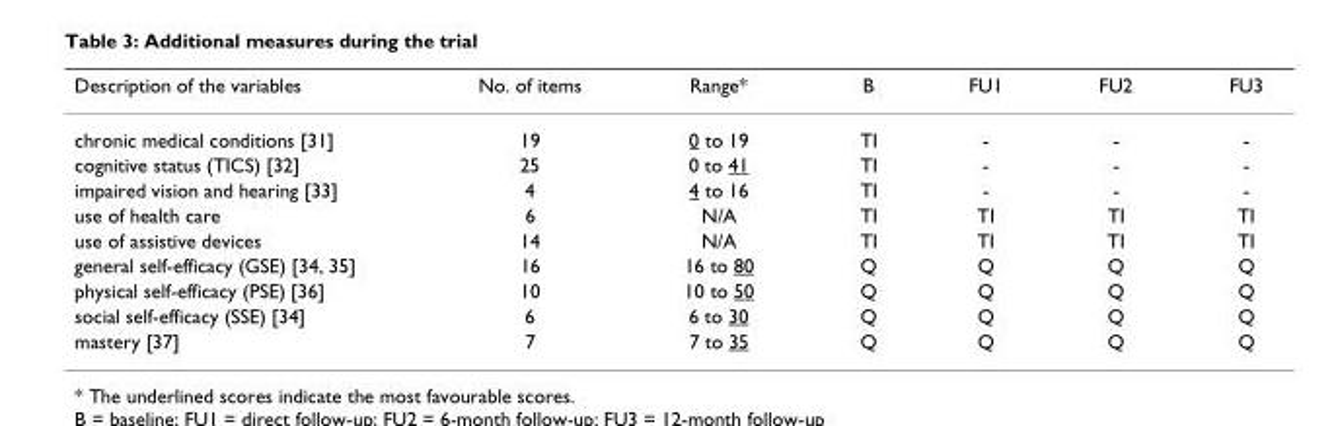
<table><thead><tr><td>Description of the variables</td><td>No. of items</td><td>Range*</td><td>B</td><td>FU1</td><td>FU2</td><td>FU3</td></tr></thead><tbody><tr><td>chronic medical conditions [31]</td><td>19</td><td>0 to 19</td><td>TI</td><td>-</td><td>-</td><td>-</td></tr><tr><td>cognitive status (TICS) [32]</td><td>25</td><td>0 to 41</td><td>TI</td><td>-</td><td>-</td><td>-</td></tr><tr><td>impaired vision and hearing [33]</td><td>4</td><td>4 to 16</td><td>TI</td><td>-</td><td>-</td><td>-</td></tr><tr><td>use of health care</td><td>6</td><td>N/A</td><td>TI</td><td>TI</td><td>TI</td><td>TI</td></tr><tr><td>use of assistive devices</td><td>14</td><td>N/A</td><td>TI</td><td>TI</td><td>TI</td><td>TI</td></tr><tr><td>general self-efficacy (GSE) [34, 35]</td><td>16</td><td>16 to 80</td><td>Q</td><td>Q</td><td>Q</td><td>Q</td></tr><tr><td>physical self-efficacy (PSE) [36]</td><td>10</td><td>10 to 50</td><td>Q</td><td>Q</td><td>Q</td><td>Q</td></tr><tr><td>social self-efficacy (SSE) [34]</td><td>6</td><td>6 to 30</td><td>Q</td><td>Q</td><td>Q</td><td>Q</td></tr><tr><td>mastery [37]</td><td>7</td><td>7 to 35</td><td>Q</td><td>Q</td><td>Q</td><td>Q</td></tr></tbody></table>